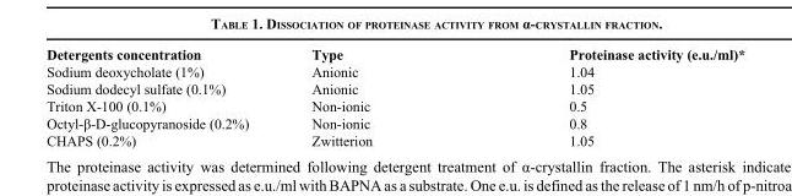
<table><thead><tr><td>Detergents concentration</td><td>Type</td><td>Proteinase activity (e.u./ml)*</td></tr></thead><tbody><tr><td>Sodium deoxycholate (1%)</td><td>Anionic</td><td>1.04</td></tr><tr><td>Sodium dodecyl sulfate (0.1%)</td><td>Anionic</td><td>1.05</td></tr><tr><td>Triton X-100 (0.1%)</td><td>Non-ionic</td><td>0.5</td></tr><tr><td>Octyl-β-D-glucopyranoside (0.2%)</td><td>Non-ionic</td><td>0.8</td></tr><tr><td>CHAPS (0.2%)</td><td>Zwitterion</td><td>1.05</td></tr></tbody></table>